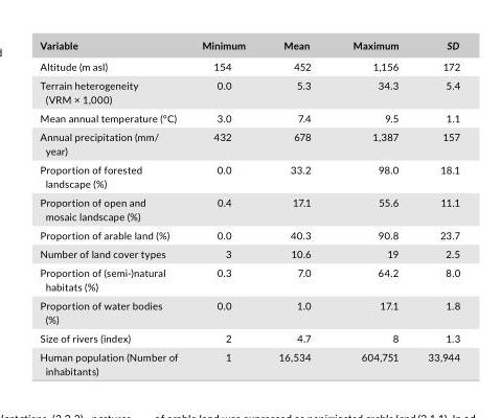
<table><thead><tr><td>Variable</td><td>Minimum</td><td>Mean</td><td>Maximum</td><td>SD</td></tr></thead><tbody><tr><td>Altitude (m asl)</td><td>154</td><td>452</td><td>1,156</td><td>172</td></tr><tr><td>Terrain heterogeneity (VRM × 1,000)</td><td>0.0</td><td>5.3</td><td>34.3</td><td>5.4</td></tr><tr><td>Mean annual temperature (°C)</td><td>3.0</td><td>7.4</td><td>9.5</td><td>1.1</td></tr><tr><td>Annual precipitation (mm/ year)</td><td>432</td><td>678</td><td>1,387</td><td>157</td></tr><tr><td>Proportion of forested landscape (%)</td><td>0.0</td><td>33.2</td><td>98.0</td><td>18.1</td></tr><tr><td>Proportion of open and mosaic landscape (%)</td><td>0.4</td><td>17.1</td><td>55.6</td><td>11.1</td></tr><tr><td>Proportion of arable land (%)</td><td>0.0</td><td>40.3</td><td>90.8</td><td>23.7</td></tr><tr><td>Number of land cover types</td><td>3</td><td>10.6</td><td>19</td><td>2.5</td></tr><tr><td>Proportion of (semi- )natural habitats (%)</td><td>0.3</td><td>7.0</td><td>64.2</td><td>8.0</td></tr><tr><td>Proportion of water bodies (%)</td><td>0.0</td><td>1.0</td><td>17.1</td><td>1.8</td></tr><tr><td>Size of rivers (index)</td><td>2</td><td>4.7</td><td>8</td><td>1.3</td></tr><tr><td>Human population (Number of inhabitants)</td><td>1</td><td>16,534</td><td>604,751</td><td>33,944</td></tr></tbody></table>